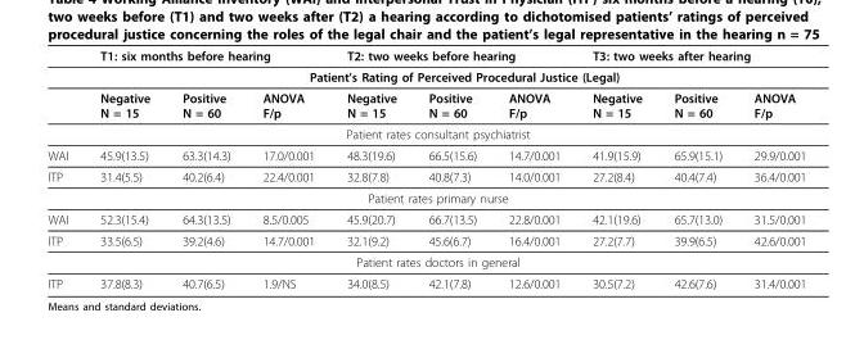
<table><thead><tr><td rowspan="3"></td><td colspan="3">T1: six months before hearing</td><td colspan="3">T2: two weeks before hearing</td><td colspan="3">T3: two weeks after hearing</td></tr><tr><td colspan="9">Patient’s Rating of Perceived Procedural Justice (Legal)</td></tr><tr><td>Negative N = 15</td><td>Positive N = 60</td><td>ANOVA F/p</td><td>Negative N = 15</td><td>Positive N = 60</td><td>ANOVA F/p</td><td>Negative N = 15</td><td>Positive N = 60</td><td>ANOVA F/p</td></tr></thead><tbody><tr><td colspan="10">Patient rates consultant psychiatrist</td></tr><tr><td>WAI</td><td>45.9(13.5)</td><td>63.3(14.3)</td><td>17.0/0.001</td><td>48.3(19.6)</td><td>66.5(15.6)</td><td>14.7/0.001</td><td>41.9(15.9)</td><td>65.9(15.1)</td><td>29.9/0.001</td></tr><tr><td>ITP</td><td>31.4(5.5)</td><td>40.2(6.4)</td><td>22.4/0.001</td><td>32.8(7.8)</td><td>40.8(7.3)</td><td>14.0/0.001</td><td>27.2(8.4)</td><td>40.4(7.4)</td><td>36.4/0.001</td></tr><tr><td colspan="10">Patient rates primary nurse</td></tr><tr><td>WAI</td><td>52.3(15.4)</td><td>64.3(13.5)</td><td>8.5/0.005</td><td>45.9(20.7)</td><td>66.7(13.5)</td><td>22.8/0.001</td><td>42.1(19.6)</td><td>65.7(13.0)</td><td>31.5/0.001</td></tr><tr><td>ITP</td><td>33.5(6.5)</td><td>39.2(4.6)</td><td>14.7/0.001</td><td>32.1(9.2)</td><td>45.6(6.7)</td><td>16.4/0.001</td><td>27.2(7.7)</td><td>39.9(6.5)</td><td>42.6/0.001</td></tr><tr><td colspan="10">Patient rates doctors in general</td></tr><tr><td>ITP</td><td>37.8(8.3)</td><td>40.7(6.5)</td><td>1.9/NS</td><td>34.0(8.5)</td><td>42.1(7.8)</td><td>12.6/0.001</td><td>30.5(7.2)</td><td>42.6(7.6)</td><td>31.4/0.001</td></tr></tbody></table>